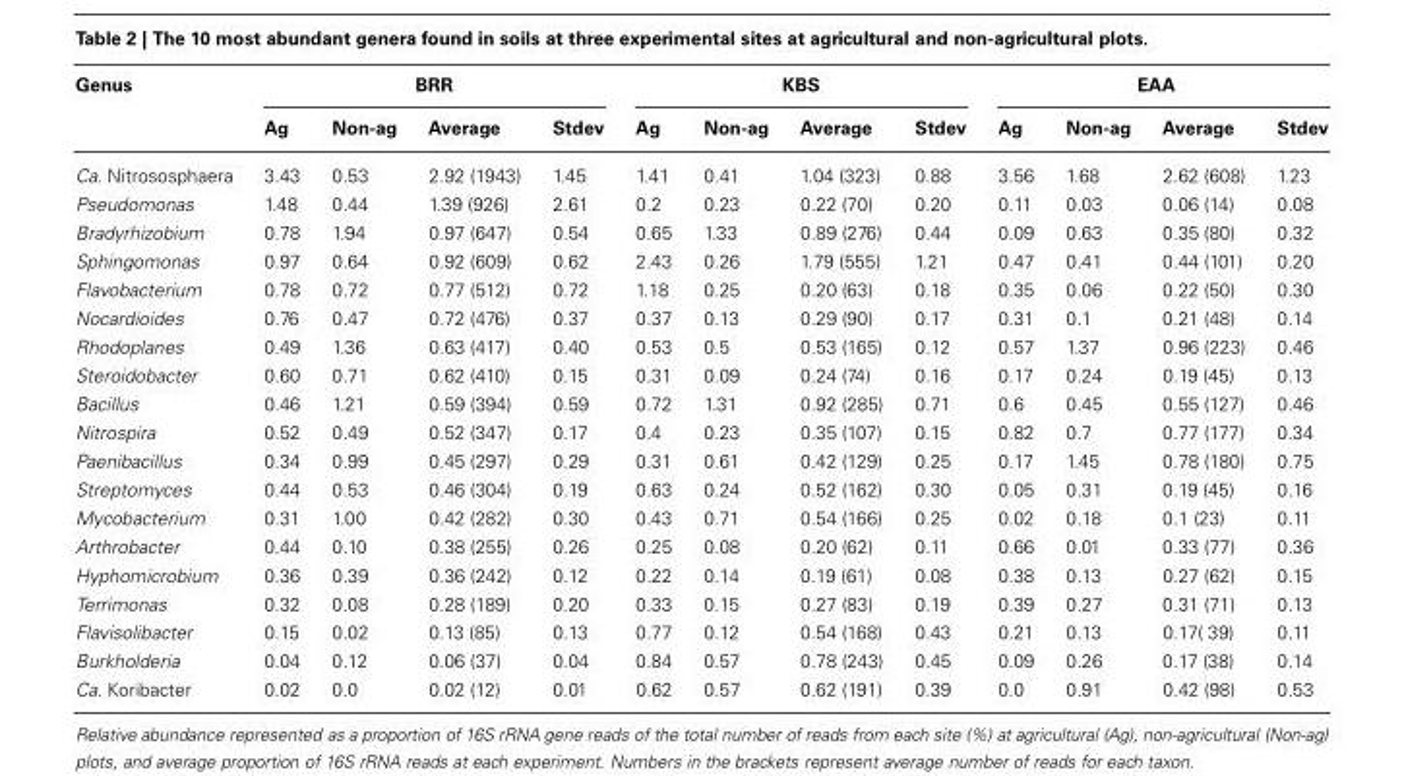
<table><thead><tr><td rowspan="2">Genus</td><td colspan="4">BRR</td><td colspan="4">KBS</td><td colspan="4">EAA</td></tr><tr><td>Ag</td><td>Non-ag</td><td>Average</td><td>Stdev</td><td>Ag</td><td>Non-ag</td><td>Average</td><td>Stdev</td><td>Ag</td><td>Non-ag</td><td>Average</td><td>Stdev</td></tr></thead><tbody><tr><td>Ca. Nitrososphaera</td><td>3.43</td><td>0.53</td><td>2.92 (1943)</td><td>1.45</td><td>1.41</td><td>0.41</td><td>1.04 (323)</td><td>0.88</td><td>3.56</td><td>1.68</td><td>2.62 (608)</td><td>1.23</td></tr><tr><td>Pseudomonas</td><td>1.48</td><td>0.44</td><td>1.39 (926)</td><td>2.61</td><td>0.2</td><td>0.23</td><td>0.22 (70)</td><td>0.20</td><td>0.11</td><td>0.03</td><td>0.06 (14)</td><td>0.08</td></tr><tr><td>Bradyrhizobium</td><td>0.78</td><td>1.94</td><td>0.97 (647)</td><td>0.54</td><td>0.65</td><td>1.33</td><td>0.89 (276)</td><td>0.44</td><td>0.09</td><td>0.63</td><td>0.35 (80)</td><td>0.32</td></tr><tr><td>Sphingomonas</td><td>0.97</td><td>0.64</td><td>0.92 (609)</td><td>0.62</td><td>2.43</td><td>0.26</td><td>1.79 (555)</td><td>1.21</td><td>0.47</td><td>0.41</td><td>0.44 (101)</td><td>0.20</td></tr><tr><td>Flavobacterium</td><td>0.78</td><td>0.72</td><td>0.77 (512)</td><td>0.72</td><td>1.18</td><td>0.25</td><td>0.20 (63)</td><td>0.18</td><td>0.35</td><td>0.06</td><td>0.22 (50)</td><td>0.30</td></tr><tr><td>Nocardioides</td><td>0.76</td><td>0.47</td><td>0.72 (476)</td><td>0.37</td><td>0.37</td><td>0.13</td><td>0.29 (90)</td><td>0.17</td><td>0.31</td><td>0.1</td><td>0.21 (48)</td><td>0.14</td></tr><tr><td>Rhodoplanes</td><td>0.49</td><td>1.36</td><td>0.63 (417)</td><td>0.40</td><td>0.53</td><td>0.5</td><td>0.53 (165)</td><td>0.12</td><td>0.57</td><td>1.37</td><td>0.96 (223)</td><td>0.46</td></tr><tr><td>Steroidobacter</td><td>0.60</td><td>0.71</td><td>0.62 (410)</td><td>0.15</td><td>0.31</td><td>0.09</td><td>0.24 (74)</td><td>0.16</td><td>0.17</td><td>0.24</td><td>0.19 (45)</td><td>0.13</td></tr><tr><td>Bacillus</td><td>0.46</td><td>1.21</td><td>0.59 (394)</td><td>0.59</td><td>0.72</td><td>1.31</td><td>0.92 (285)</td><td>0.71</td><td>0.6</td><td>0.45</td><td>0.55 (127)</td><td>0.46</td></tr><tr><td>Nitrospira</td><td>0.52</td><td>0.49</td><td>0.52 (347)</td><td>0.17</td><td>0.4</td><td>0.23</td><td>0.35 (107)</td><td>0.15</td><td>0.82</td><td>0.7</td><td>0.77 (177)</td><td>0.34</td></tr><tr><td>Paenibacillus</td><td>0.34</td><td>0.99</td><td>0.45 (297)</td><td>0.29</td><td>0.31</td><td>0.61</td><td>0.42 (129)</td><td>0.25</td><td>0.17</td><td>1.45</td><td>0.78 (180)</td><td>0.75</td></tr><tr><td>Streptomyces</td><td>0.44</td><td>0.53</td><td>0.46 (304)</td><td>0.19</td><td>0.63</td><td>0.24</td><td>0.52 (162)</td><td>0.30</td><td>0.05</td><td>0.31</td><td>0.19 (45)</td><td>0.16</td></tr><tr><td>Mycobacterium</td><td>0.31</td><td>1.00</td><td>0.42 (282)</td><td>0.30</td><td>0.43</td><td>0.71</td><td>0.54 (166)</td><td>0.25</td><td>0.02</td><td>0.18</td><td>0.1 (23)</td><td>0.11</td></tr><tr><td>Arthrobacter</td><td>0.44</td><td>0.10</td><td>0.38 (255)</td><td>0.26</td><td>0.25</td><td>0.08</td><td>0.20 (62)</td><td>0.11</td><td>0.66</td><td>0.01</td><td>0.33 (77)</td><td>0.36</td></tr><tr><td>Hyphomicrobium</td><td>0.36</td><td>0.39</td><td>0.36 (242)</td><td>0.12</td><td>0.22</td><td>0.14</td><td>0.19 (61)</td><td>0.08</td><td>0.38</td><td>0.13</td><td>0.27 (62)</td><td>0.15</td></tr><tr><td>Terrimonas</td><td>0.32</td><td>0.08</td><td>0.28 (189)</td><td>0.20</td><td>0.33</td><td>0.15</td><td>0.27 (83)</td><td>0.19</td><td>0.39</td><td>0.27</td><td>0.31 (71)</td><td>0.13</td></tr><tr><td>Flavisolibacter</td><td>0.15</td><td>0.02</td><td>0.13 (85)</td><td>0.13</td><td>0.77</td><td>0.12</td><td>0.54 (168)</td><td>0.43</td><td>0.21</td><td>0.13</td><td>0.17( 39)</td><td>0.11</td></tr><tr><td>Burkholderia</td><td>0.04</td><td>0.12</td><td>0.06 (37)</td><td>0.04</td><td>0.84</td><td>0.57</td><td>0.78 (243)</td><td>0.45</td><td>0.09</td><td>0.26</td><td>0.17 (38)</td><td>0.14</td></tr><tr><td>Ca. Koribacter</td><td>0.02</td><td>0.0</td><td>0.02 (12)</td><td>0.01</td><td>0.62</td><td>0.57</td><td>0.62 (191)</td><td>0.39</td><td>0.0</td><td>0.91</td><td>0.42 (98)</td><td>0.53</td></tr></tbody></table>